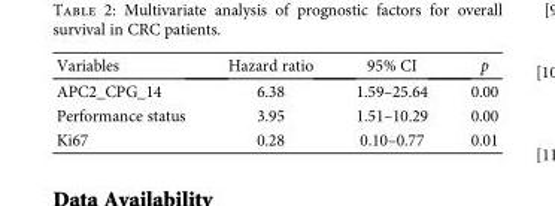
<table><thead><tr><td>Variables</td><td>Hazard ratio</td><td>95% CI</td><td>p</td></tr></thead><tbody><tr><td>APC2_CPG_14</td><td>6.38</td><td>1.59–25.64</td><td>0.00</td></tr><tr><td>Performance status</td><td>3.95</td><td>1.51–10.29</td><td>0.00</td></tr><tr><td>Ki67</td><td>0.28</td><td>0.10–0.77</td><td>0.01</td></tr></tbody></table>